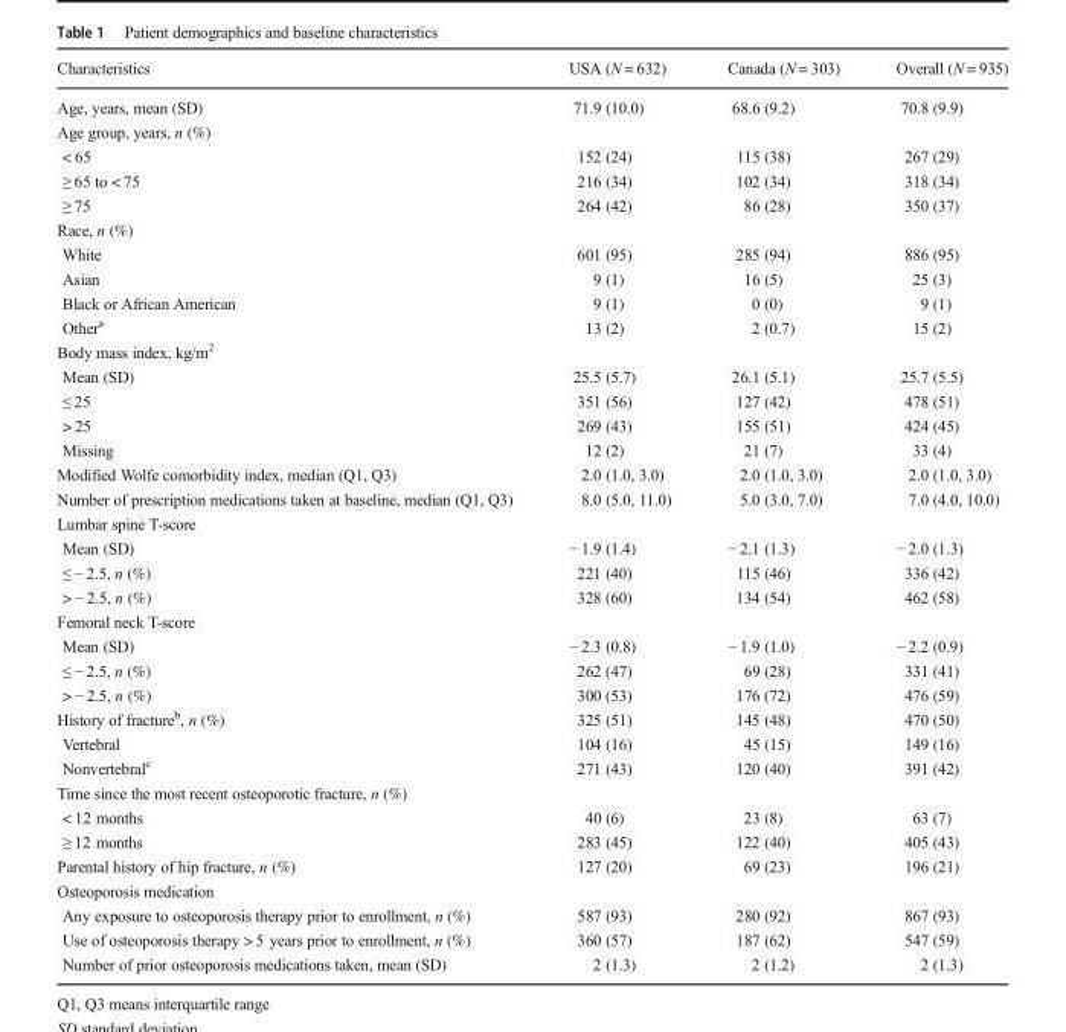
<table><thead><tr><td>Characteristics</td><td>USA (N = 632)</td><td>Canada (N = 303)</td><td>Overall (N = 935)</td></tr></thead><tbody><tr><td>Age, years, mean (SD)</td><td>71.9 (10.0)</td><td>68.6 (9.2)</td><td>70.8 (9.9)</td></tr><tr><td colspan="4">Age group, years, n (%)</td></tr><tr><td>&lt; 65</td><td>152 (24)</td><td>115 (38)</td><td>267 (29)</td></tr><tr><td>≥ 65 to &lt; 75</td><td>216 (34)</td><td>102 (34)</td><td>318 (34)</td></tr><tr><td>≥ 75</td><td>264 (42)</td><td>86 (28)</td><td>350 (37)</td></tr><tr><td colspan="4">Race, n (%)</td></tr><tr><td>White</td><td>601 (95)</td><td>285 (94)</td><td>886 (95)</td></tr><tr><td>Asian</td><td>9 (1)</td><td>16 (5)</td><td>25 (3)</td></tr><tr><td>Black or African American</td><td>9 (1)</td><td>0 (0)</td><td>9 (1)</td></tr><tr><td>Other<sup>a</sup></td><td>13 (2)</td><td>2 (0.7)</td><td>15 (2)</td></tr><tr><td colspan="4">Body mass index, kg/m<sup>2</sup></td></tr><tr><td>Mean (SD)</td><td>25.5 (5.7)</td><td>26.1 (5.1)</td><td>25.7 (5.5)</td></tr><tr><td>≤ 25</td><td>351 (56)</td><td>127 (42)</td><td>478 (51)</td></tr><tr><td>&gt; 25</td><td>269 (43)</td><td>155 (51)</td><td>424 (45)</td></tr><tr><td>Missing</td><td>12 (2)</td><td>21 (7)</td><td>33 (4)</td></tr><tr><td>Modified Wolfe comorbidity index, median (Q1, Q3)</td><td>2.0 (1.0, 3.0)</td><td>2.0 (1.0, 3.0)</td><td>2.0 (1.0, 3.0)</td></tr><tr><td>Number of prescription medications taken at baseline, median (Q1, Q3)</td><td>8.0 (5.0, 11.0)</td><td>5.0 (3.0, 7.0)</td><td>7.0 (4.0, 10.0)</td></tr><tr><td colspan="4">Lumbar spine T-score</td></tr><tr><td>Mean (SD)</td><td>− 1.9 (1.4)</td><td>− 2.1 (1.3)</td><td>− 2.0 (1.3)</td></tr><tr><td>≤ − 2.5, n (%)</td><td>221 (40)</td><td>115 (46)</td><td>336 (42)</td></tr><tr><td>&gt; − 2.5, n (%)</td><td>328 (60)</td><td>134 (54)</td><td>462 (58)</td></tr><tr><td colspan="4">Femoral neck T-score</td></tr><tr><td>Mean (SD)</td><td>− 2.3 (0.8)</td><td>− 1.9 (1.0)</td><td>− 2.2 (0.9)</td></tr><tr><td>≤ − 2.5, n (%)</td><td>262 (47)</td><td>69 (28)</td><td>331 (41)</td></tr><tr><td>&gt; − 2.5, n (%)</td><td>300 (53)</td><td>176 (72)</td><td>476 (59)</td></tr><tr><td>History of fracture<sup>b</sup>, n (%)</td><td>325 (51)</td><td>145 (48)</td><td>470 (50)</td></tr><tr><td>Vertebral</td><td>104 (16)</td><td>45 (15)</td><td>149 (16)</td></tr><tr><td>Nonvertebral<sup>c</sup></td><td>271 (43)</td><td>120 (40)</td><td>391 (42)</td></tr><tr><td colspan="4">Time since the most recent osteoporotic fracture, n (%)</td></tr><tr><td>&lt; 12 months</td><td>40 (6)</td><td>23 (8)</td><td>63 (7)</td></tr><tr><td>≥ 12 months</td><td>283 (45)</td><td>122 (40)</td><td>405 (43)</td></tr><tr><td>Parental history of hip fracture, n (%)</td><td>127 (20)</td><td>69 (23)</td><td>196 (21)</td></tr><tr><td colspan="4">Osteoporosis medication</td></tr><tr><td>Any exposure to osteoporosis therapy prior to enrollment, n (%)</td><td>587 (93)</td><td>280 (92)</td><td>867 (93)</td></tr><tr><td>Use of osteoporosis therapy &gt; 5 years prior to enrollment, n (%)</td><td>360 (57)</td><td>187 (62)</td><td>547 (59)</td></tr><tr><td>Number of prior osteoporosis medications taken, mean (SD)</td><td>2 (1.3)</td><td>2 (1.2)</td><td>2 (1.3)</td></tr></tbody></table>